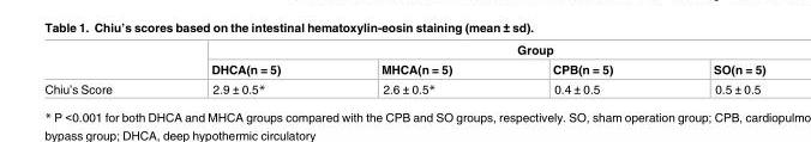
<table><thead><tr><td rowspan="2"></td><td colspan="4">Group</td></tr><tr><td>DHCA(n = 5)</td><td>MHCA(n = 5)</td><td>CPB(n = 5)</td><td>SO(n = 5)</td></tr></thead><tbody><tr><td>Chiu’s Score</td><td>2.9 ± 0.5*</td><td>2.6 ± 0.5*</td><td>0.4 ± 0.5</td><td>0.5 ± 0.5</td></tr></tbody></table>